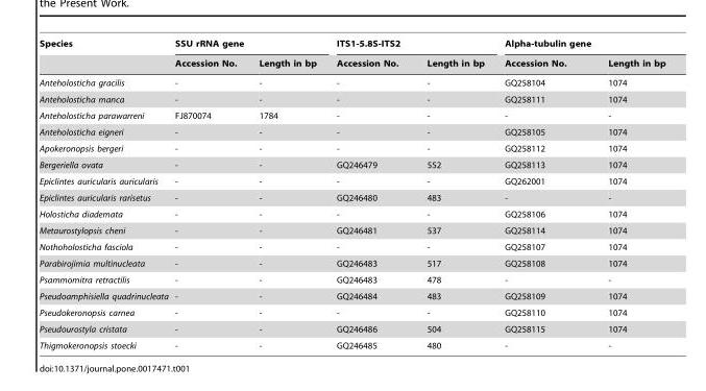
<table><thead><tr><td rowspan="2">Species</td><td colspan="2">SSU rRNA gene</td><td colspan="2">ITS1-5.8S-ITS2</td><td colspan="2">Alpha-tubulin gene</td></tr><tr><td>Accession No.</td><td>Length in bp</td><td>Accession No.</td><td>Length in bp</td><td>Accession No.</td><td>Length in bp</td></tr></thead><tbody><tr><td>Anteholosticha gracilis</td><td>-</td><td>-</td><td>-</td><td>-</td><td>GQ258104</td><td>1074</td></tr><tr><td>Anteholosticha manca</td><td>-</td><td>-</td><td>-</td><td>-</td><td>GQ258111</td><td>1074</td></tr><tr><td>Anteholosticha parawarreni</td><td>FJ870074</td><td>1784</td><td>-</td><td>-</td><td>-</td><td>-</td></tr><tr><td>Anteholosticha eigneri</td><td>-</td><td>-</td><td>-</td><td>-</td><td>GQ258105</td><td>1074</td></tr><tr><td>Apokeronopsis bergeri</td><td>-</td><td>-</td><td>-</td><td>-</td><td>GQ258112</td><td>1074</td></tr><tr><td>Bergeriella ovata</td><td>-</td><td>-</td><td>GQ246479</td><td>552</td><td>GQ258113</td><td>1074</td></tr><tr><td>Epiclintes auricularis auricularis</td><td>-</td><td>-</td><td>-</td><td>-</td><td>GQ262001</td><td>1074</td></tr><tr><td>Epiclintes auricularis rarisetus</td><td>-</td><td>-</td><td>GQ246480</td><td>483</td><td>-</td><td>-</td></tr><tr><td>Holosticha diademata</td><td>-</td><td>-</td><td>-</td><td>-</td><td>GQ258106</td><td>1074</td></tr><tr><td>Metaurostylopsis cheni</td><td>-</td><td>-</td><td>GQ246481</td><td>537</td><td>GQ258114</td><td>1074</td></tr><tr><td>Nothoholosticha fasciola</td><td>-</td><td>-</td><td>-</td><td>-</td><td>GQ258107</td><td>1074</td></tr><tr><td>Parabirojimia multinucleata</td><td>-</td><td>-</td><td>GQ246483</td><td>517</td><td>GQ258108</td><td>1074</td></tr><tr><td>Psammomitra retractilis</td><td>-</td><td>-</td><td>GQ246483</td><td>478</td><td>-</td><td>-</td></tr><tr><td>Pseudoamphisiella quadrinucleata</td><td>-</td><td>-</td><td>GQ246484</td><td>483</td><td>GQ258109</td><td>1074</td></tr><tr><td>Pseudokeronopsis carnea</td><td>-</td><td>-</td><td>-</td><td>-</td><td>GQ258110</td><td>1074</td></tr><tr><td>Pseudourostyla cristata</td><td>-</td><td>-</td><td>GQ246486</td><td>504</td><td>GQ258115</td><td>1074</td></tr><tr><td>Thigmokeronopsis stoecki</td><td>-</td><td>-</td><td>GQ246485</td><td>480</td><td>-</td><td>-</td></tr></tbody></table>